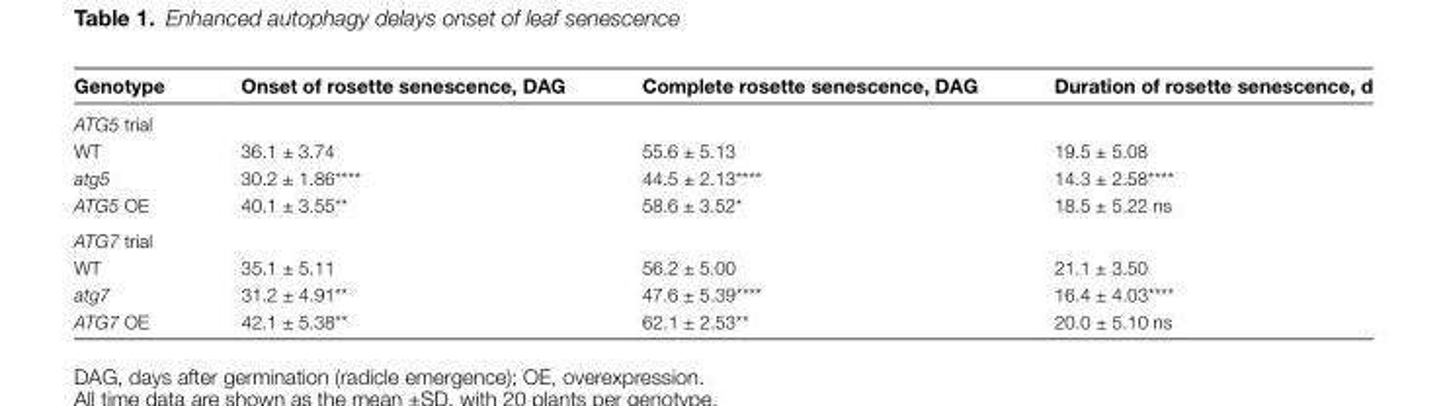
<table><thead><tr><td>Genotype</td><td>Onset of rosette senescence, DAG</td><td>Complete rosette senescence, DAG</td><td>Duration of rosette senescence, d</td></tr></thead><tbody><tr><td colspan="4">ATG5 trial</td></tr><tr><td>WT</td><td>36.1 ± 3.74</td><td>55.6 ± 5.13</td><td>19.5 ± 5.08</td></tr><tr><td>atg5</td><td>30.2 ± 1.86****</td><td>44.5 ± 2.13****</td><td>14.3 ± 2.58****</td></tr><tr><td>ATG5 OE</td><td>40.1 ± 3.55**</td><td>58.6 ± 3.52*</td><td>18.5 ± 5.22 ns</td></tr><tr><td colspan="4">ATG7 trial</td></tr><tr><td>WT</td><td>35.1 ± 5.11</td><td>56.2 ± 5.00</td><td>21.1 ± 3.50</td></tr><tr><td>atg7</td><td>31.2 ± 4.91**</td><td>47.6 ± 5.39****</td><td>16.4 ± 4.03****</td></tr><tr><td>ATG7 OE</td><td>42.1 ± 5.38**</td><td>62.1 ± 2.53**</td><td>20.0 ± 5.10 ns</td></tr></tbody></table>